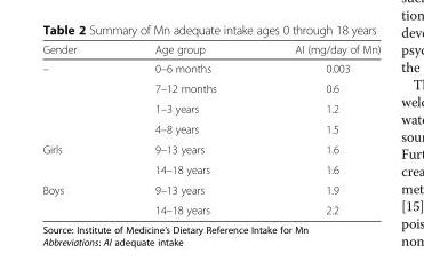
<table><thead><tr><td>Gender</td><td>Age group</td><td>AI (mg/day of Mn)</td></tr></thead><tbody><tr><td rowspan="4">–</td><td>0–6 months</td><td>0.003</td></tr><tr><td>7–12 months</td><td>0.6</td></tr><tr><td>1–3 years</td><td>1.2</td></tr><tr><td>4–8 years</td><td>1.5</td></tr><tr><td rowspan="2">Girls</td><td>9–13 years</td><td>1.6</td></tr><tr><td>14–18 years</td><td>1.6</td></tr><tr><td rowspan="2">Boys</td><td>9–13 years</td><td>1.9</td></tr><tr><td>14–18 years</td><td>2.2</td></tr></tbody></table>